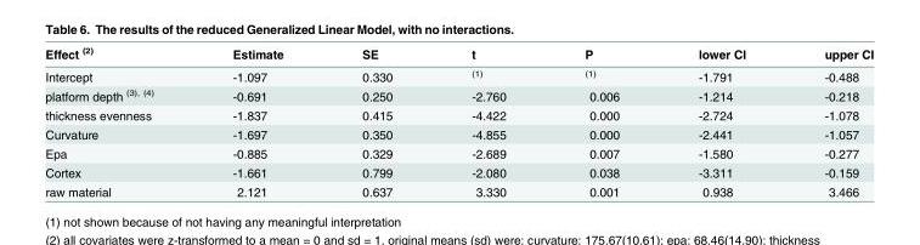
<table><thead><tr><td>Effect <sup>(2)</sup></td><td>Estimate</td><td>SE</td><td>t</td><td>P</td><td>lower CI</td><td>upper CI</td></tr></thead><tbody><tr><td>Intercept</td><td>-1.097</td><td>0.330</td><td><sup>(1)</sup></td><td><sup>(1)</sup></td><td>-1.791</td><td>-0.488</td></tr><tr><td>platform depth <sup>(3), (4)</sup></td><td>-0.691</td><td>0.250</td><td>-2.760</td><td>0.006</td><td>-1.214</td><td>-0.218</td></tr><tr><td>thickness evenness</td><td>-1.837</td><td>0.415</td><td>-4.422</td><td>0.000</td><td>-2.724</td><td>-1.078</td></tr><tr><td>Curvature</td><td>-1.697</td><td>0.350</td><td>-4.855</td><td>0.000</td><td>-2.441</td><td>-1.057</td></tr><tr><td>Epa</td><td>-0.885</td><td>0.329</td><td>-2.689</td><td>0.007</td><td>-1.580</td><td>-0.277</td></tr><tr><td>Cortex</td><td>-1.661</td><td>0.799</td><td>-2.080</td><td>0.038</td><td>-3.311</td><td>-0.159</td></tr><tr><td>raw material</td><td>2.121</td><td>0.637</td><td>3.330</td><td>0.001</td><td>0.938</td><td>3.466</td></tr></tbody></table>